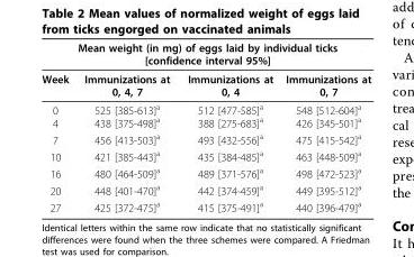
<table><thead><tr><td colspan="4">Mean weight (in mg) of eggs laid by individual ticks [confidence interval 95%]</td></tr><tr><td>Week</td><td>Immunizations at 0, 4, 7</td><td>Immunizations at 0, 4</td><td>Immunizations at 0, 7</td></tr></thead><tbody><tr><td>0 4</td><td>525 [385-613]<sup>a</sup> 438 [375-498]<sup>a</sup></td><td>512 [477-585]<sup>a</sup> 388 [275-683]<sup>a</sup></td><td>548 [512-604]<sup>a</sup> 426 [345-501]<sup>a</sup></td></tr><tr><td>7</td><td>456 [413-503]<sup>a</sup></td><td>493 [432-556]<sup>a</sup></td><td>475 [415-542]<sup>a</sup></td></tr><tr><td>10</td><td>421 [385-443]<sup>a</sup></td><td>435 [384-485]<sup>a</sup></td><td>463 [448-509]<sup>a</sup></td></tr><tr><td>16</td><td>480 [464-509]<sup>a</sup></td><td>489 [371-576]<sup>a</sup></td><td>498 [472-523]<sup>a</sup></td></tr><tr><td>20</td><td>448 [401-470]<sup>a</sup></td><td>442 [374-459]<sup>a</sup></td><td>449 [395-512]<sup>a</sup></td></tr><tr><td>27</td><td>425 [372-475]<sup>a</sup></td><td>415 [375-491]<sup>a</sup></td><td>440 [396-479]<sup>a</sup></td></tr></tbody></table>